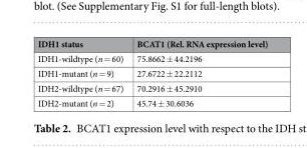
<table><thead><tr><td>IDH1 status</td><td>BCAT1 (Rel. RNA expression level)</td></tr></thead><tbody><tr><td>IDH1-wildtype (n = 60)</td><td>75.8662 ± 44.2196</td></tr><tr><td>IDH1-mutant (n = 9)</td><td>27.6722 ± 22.2112</td></tr><tr><td>IDH2-wildtype (n = 67)</td><td>70.2916 ± 45.2910</td></tr><tr><td>IDH2-mutant (n = 2)</td><td>45.74 ± 30.6036</td></tr></tbody></table>